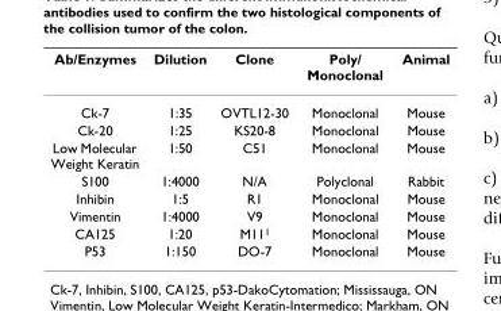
<table><thead><tr><td>Ab/Enzymes</td><td>Dilution</td><td>Clone</td><td>Poly/ Monoclonal</td><td>Animal</td></tr></thead><tbody><tr><td>Ck-7</td><td>1:35</td><td>OVTL12-30</td><td>Monoclonal</td><td>Mouse</td></tr><tr><td>Ck-20</td><td>1:25</td><td>KS20-8</td><td>Monoclonal</td><td>Mouse</td></tr><tr><td>Low Molecular Weight Keratin</td><td>1:50</td><td>C51</td><td>Monoclonal</td><td>Mouse</td></tr><tr><td>S100</td><td>1:4000</td><td>N/A</td><td>Polyclonal</td><td>Rabbit</td></tr><tr><td>Inhibin</td><td>1:5</td><td>R1</td><td>Monoclonal</td><td>Mouse</td></tr><tr><td>Vimentin</td><td>1:4000</td><td>V9</td><td>Monoclonal</td><td>Mouse</td></tr><tr><td>CA125</td><td>1:20</td><td>M11<sup>1</sup></td><td>Monoclonal</td><td>Mouse</td></tr><tr><td>P53</td><td>1:150</td><td>DO-7</td><td>Monoclonal</td><td>Mouse</td></tr></tbody></table>